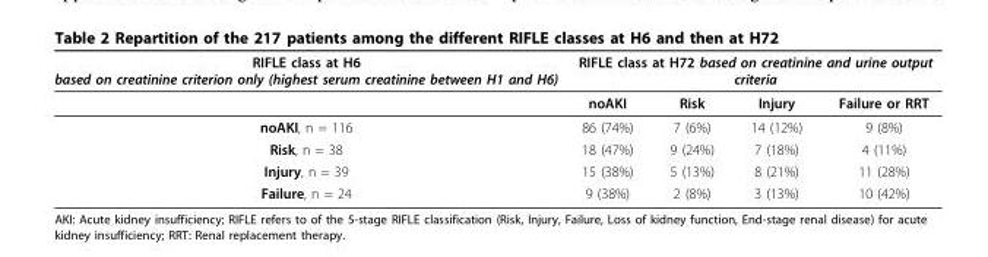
<table><thead><tr><td rowspan="2">RIFLE class at H6 based on creatinine criterion only (highest serum creatinine between H1 and H6)</td><td colspan="4">RIFLE class at H72 based on creatinine and urine output criteria</td></tr><tr><td>noAKI</td><td>Risk</td><td>Injury</td><td>Failure or RRT</td></tr></thead><tbody><tr><td>noAKI, n = 116</td><td>86 (74%)</td><td>7 (6%)</td><td>14 (12%)</td><td>9 (8%)</td></tr><tr><td>Risk, n = 38</td><td>18 (47%)</td><td>9 (24%)</td><td>7 (18%)</td><td>4 (11%)</td></tr><tr><td>Injury, n = 39</td><td>15 (38%)</td><td>5 (13%)</td><td>8 (21%)</td><td>11 (28%)</td></tr><tr><td>Failure, n = 24</td><td>9 (38%)</td><td>2 (8%)</td><td>3 (13%)</td><td>10 (42%)</td></tr></tbody></table>